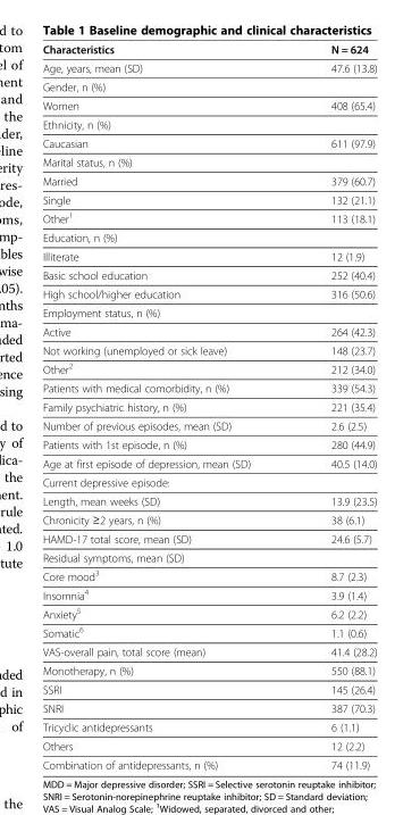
<table><thead><tr><td>Characteristics</td><td>N = 624</td></tr></thead><tbody><tr><td>Age, years, mean (SD)</td><td>47.6 (13.8)</td></tr><tr><td colspan="2">Gender, n (%)</td></tr><tr><td>Women</td><td>408 (65.4)</td></tr><tr><td colspan="2">Ethnicity, n (%)</td></tr><tr><td>Caucasian</td><td>611 (97.9)</td></tr><tr><td colspan="2">Marital status, n (%)</td></tr><tr><td>Married</td><td>379 (60.7)</td></tr><tr><td>Single</td><td>132 (21.1)</td></tr><tr><td>Other<sup>1</sup></td><td>113 (18.1)</td></tr><tr><td colspan="2">Education, n (%)</td></tr><tr><td>Illiterate</td><td>12 (1.9)</td></tr><tr><td>Basic school education</td><td>252 (40.4)</td></tr><tr><td>High school/higher education</td><td>316 (50.6)</td></tr><tr><td colspan="2">Employment status, n (%)</td></tr><tr><td>Active</td><td>264 (42.3)</td></tr><tr><td>Not working (unemployed or sick leave)</td><td>148 (23.7)</td></tr><tr><td>Other<sup>2</sup></td><td>212 (34.0)</td></tr><tr><td>Patients with medical comorbidity, n (%)</td><td>339 (54.3)</td></tr><tr><td>Family psychiatric history, n (%)</td><td>221 (35.4)</td></tr><tr><td>Number of previous episodes, mean (SD)</td><td>2.6 (2.5)</td></tr><tr><td>Patients with 1st episode, n (%)</td><td>280 (44.9)</td></tr><tr><td>Age at first episode of depression, mean (SD)</td><td>40.5 (14.0)</td></tr><tr><td colspan="2">Current depressive episode:</td></tr><tr><td>Length, mean weeks (SD)</td><td>13.9 (23.5)</td></tr><tr><td>Chronicity ≥2 years, n (%)</td><td>38 (6.1)</td></tr><tr><td>HAMD-17 total score, mean (SD)</td><td>24.6 (5.7)</td></tr><tr><td colspan="2">Residual symptoms, mean (SD)</td></tr><tr><td>Core mood<sup>3</sup></td><td>8.7 (2.3)</td></tr><tr><td>Insomnia<sup>4</sup></td><td>3.9 (1.4)</td></tr><tr><td>Anxiety<sup>5</sup></td><td>6.2 (2.2)</td></tr><tr><td>Somatic<sup>6</sup></td><td>1.1 (0.6)</td></tr><tr><td>VAS-overall pain, total score (mean)</td><td>41.4 (28.2)</td></tr><tr><td>Monotherapy, n (%)</td><td>550 (88.1)</td></tr><tr><td>SSRI</td><td>145 (26.4)</td></tr><tr><td>SNRI</td><td>387 (70.3)</td></tr><tr><td>Tricyclic antidepressants</td><td>6 (1.1)</td></tr><tr><td>Others</td><td>12 (2.2)</td></tr><tr><td>Combination of antidepressants, n (%)</td><td>74 (11.9)</td></tr></tbody></table>